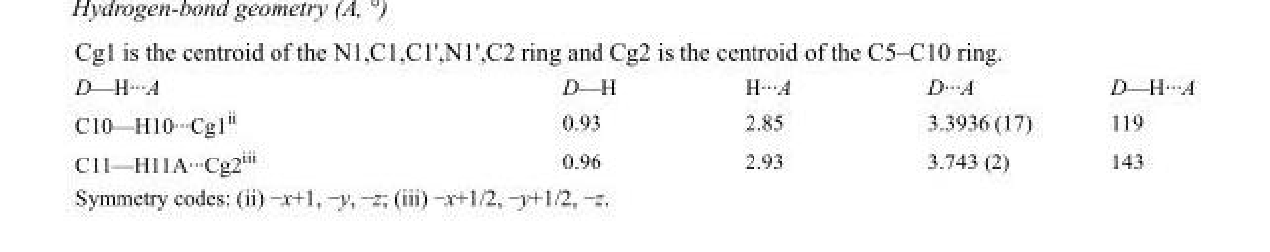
<table><tbody><tr><td>D—H···A</td><td>D—H</td><td>H···A</td><td>D···A</td><td>D—H···A</td></tr><tr><td>C10—H10···Cg1<sup>ii</sup></td><td>0.93</td><td>2.85</td><td>3.3936 (17)</td><td>119</td></tr><tr><td>C11—H11A···Cg2<sup>iii</sup></td><td>0.96</td><td>2.93</td><td>3.743 (2)</td><td>143</td></tr></tbody></table>